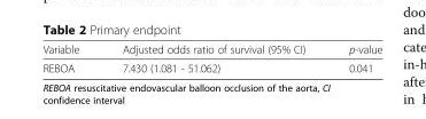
<table><thead><tr><td>Variable</td><td>Adjusted odds ratio of survival (95% CI)</td><td>p-value</td></tr></thead><tbody><tr><td>REBOA</td><td>7.430 (1.081 - 51.062)</td><td>0.041</td></tr></tbody></table>